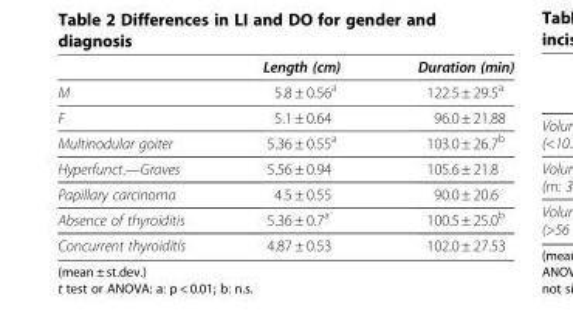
<table><thead><tr><td></td><td>Length (cm)</td><td>Duration (min)</td></tr></thead><tbody><tr><td>M</td><td>5.8 ± 0.56<sup>a</sup></td><td>122.5 ± 29.5<sup>a</sup></td></tr><tr><td>F</td><td>5.1 ± 0.64</td><td>96.0 ± 21.88</td></tr><tr><td>Multinodular goiter</td><td>5.36 ± 0.55<sup>a</sup></td><td>103.0 ± 26.7<sup>b</sup></td></tr><tr><td>Hyperfunct.—Graves</td><td>5.56 ± 0.94</td><td>105.6 ± 21.8</td></tr><tr><td>Papillary carcinoma</td><td>4.5 ± 0.55</td><td>90.0 ± 20.6</td></tr><tr><td>Absence of thyroiditis</td><td>5.36 ± 0.7<sup>a</sup></td><td>100.5 ± 25.0<sup>b</sup></td></tr><tr><td>Concurrent thyroiditis</td><td>4.87 ± 0.53</td><td>102.0 ± 27.53</td></tr></tbody></table>